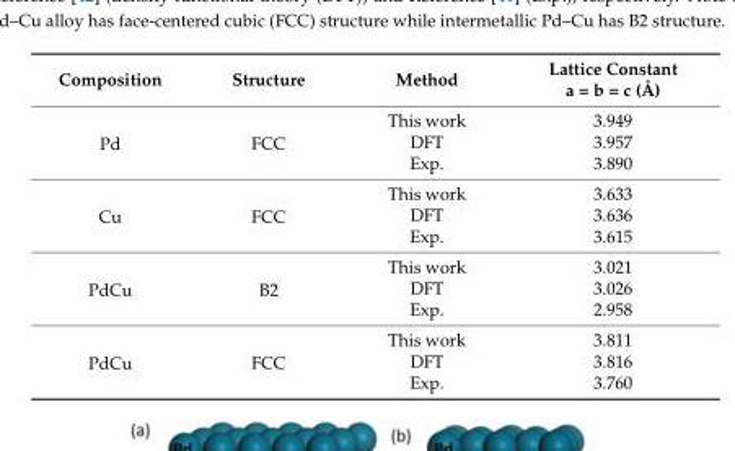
<table><thead><tr><td>Composition</td><td>Structure</td><td>Method</td><td>Lattice Constant a = b = c (Å)</td></tr></thead><tbody><tr><td rowspan="3">Pd</td><td rowspan="3">FCC</td><td>This work</td><td>3.949</td></tr><tr><td>DFT</td><td>3.957</td></tr><tr><td>Exp.</td><td>3.890</td></tr><tr><td rowspan="3">Cu</td><td rowspan="3">FCC</td><td>This work</td><td>3.633</td></tr><tr><td>DFT</td><td>3.636</td></tr><tr><td>Exp.</td><td>3.615</td></tr><tr><td rowspan="3">PdCu</td><td rowspan="3">B2</td><td>This work</td><td>3.021</td></tr><tr><td>DFT</td><td>3.026</td></tr><tr><td>Exp.</td><td>2.958</td></tr><tr><td rowspan="3">PdCu</td><td rowspan="3">FCC</td><td>This work</td><td>3.811</td></tr><tr><td>DFT</td><td>3.816</td></tr><tr><td>Exp.</td><td>3.760</td></tr></tbody></table>